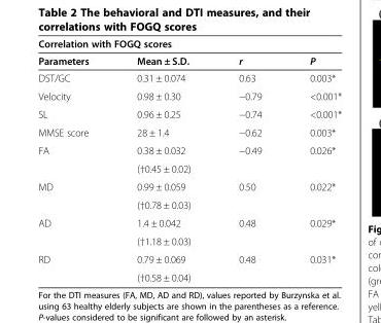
<table><thead><tr><td colspan="4">Correlation with FOGQ scores</td></tr><tr><td>Parameters</td><td>Mean ± S.D.</td><td>r</td><td>P</td></tr></thead><tbody><tr><td>DST/GC</td><td>0.31 ± 0.074</td><td>0.63</td><td>0.003*</td></tr><tr><td>Velocity</td><td>0.98 ± 0.30</td><td>−0.79</td><td>&lt;0.001*</td></tr><tr><td>SL</td><td>0.96 ± 0.25</td><td>−0.74</td><td>&lt;0.001*</td></tr><tr><td>MMSE score</td><td>28 ± 1.4</td><td>−0.62</td><td>0.003*</td></tr><tr><td rowspan="2">FA</td><td>0.38 ± 0.032</td><td rowspan="2">−0.49</td><td rowspan="2">0.026*</td></tr><tr><td>(†0.45 ± 0.02)</td></tr><tr><td rowspan="2">MD</td><td>0.99 ± 0.059</td><td rowspan="2">0.50</td><td rowspan="2">0.022*</td></tr><tr><td>(†0.78 ± 0.03)</td></tr><tr><td rowspan="2">AD</td><td>1.4 ± 0.042</td><td rowspan="2">0.48</td><td rowspan="2">0.029*</td></tr><tr><td>(†1.18 ± 0.03)</td></tr><tr><td rowspan="2">RD</td><td>0.79 ± 0.069</td><td rowspan="2">0.48</td><td rowspan="2">0.031*</td></tr><tr><td>(†0.58 ± 0.04)</td></tr></tbody></table>